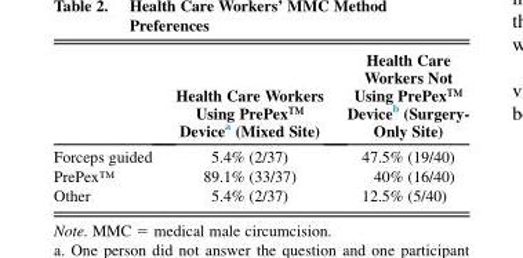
<table><thead><tr><td></td><td>Health Care Workers Using PrePex™ Device<sup>a</sup> (Mixed Site)</td><td>Health Care Workers Not Using PrePex™ Device<sup>b</sup> (Surgery- Only Site)</td></tr></thead><tbody><tr><td>Forceps guided</td><td>5.4% (2/37)</td><td>47.5% (19/40)</td></tr><tr><td>PrePex™</td><td>89.1% (33/37)</td><td>40% (16/40)</td></tr><tr><td>Other</td><td>5.4% (2/37)</td><td>12.5% (5/40)</td></tr></tbody></table>